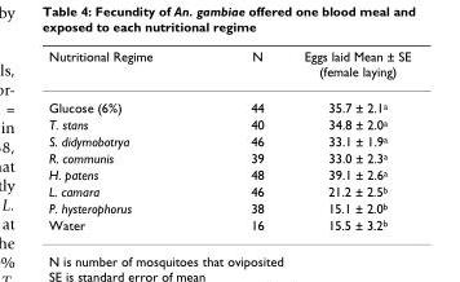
<table><thead><tr><td>Nutritional Regime</td><td>N</td><td>Eggs laid Mean ± SE (female laying)</td></tr></thead><tbody><tr><td>Glucose (6%)</td><td>44</td><td>35.7 ± 2.1<sup>a</sup></td></tr><tr><td>T. stans</td><td>40</td><td>34.8 ± 2.0<sup>a</sup></td></tr><tr><td>S. didymobotrya</td><td>46</td><td>33.1 ± 1.9<sup>a</sup></td></tr><tr><td>R. communis</td><td>39</td><td>33.0 ± 2.3<sup>a</sup></td></tr><tr><td>H. patens</td><td>48</td><td>39.1 ± 2.6<sup>a</sup></td></tr><tr><td>L. camara</td><td>46</td><td>21.2 ± 2.5<sup>b</sup></td></tr><tr><td>P. hysterophorus</td><td>38</td><td>15.1 ± 2.0<sup>b</sup></td></tr><tr><td>Water</td><td>16</td><td>15.5 ± 3.2<sup>b</sup></td></tr></tbody></table>